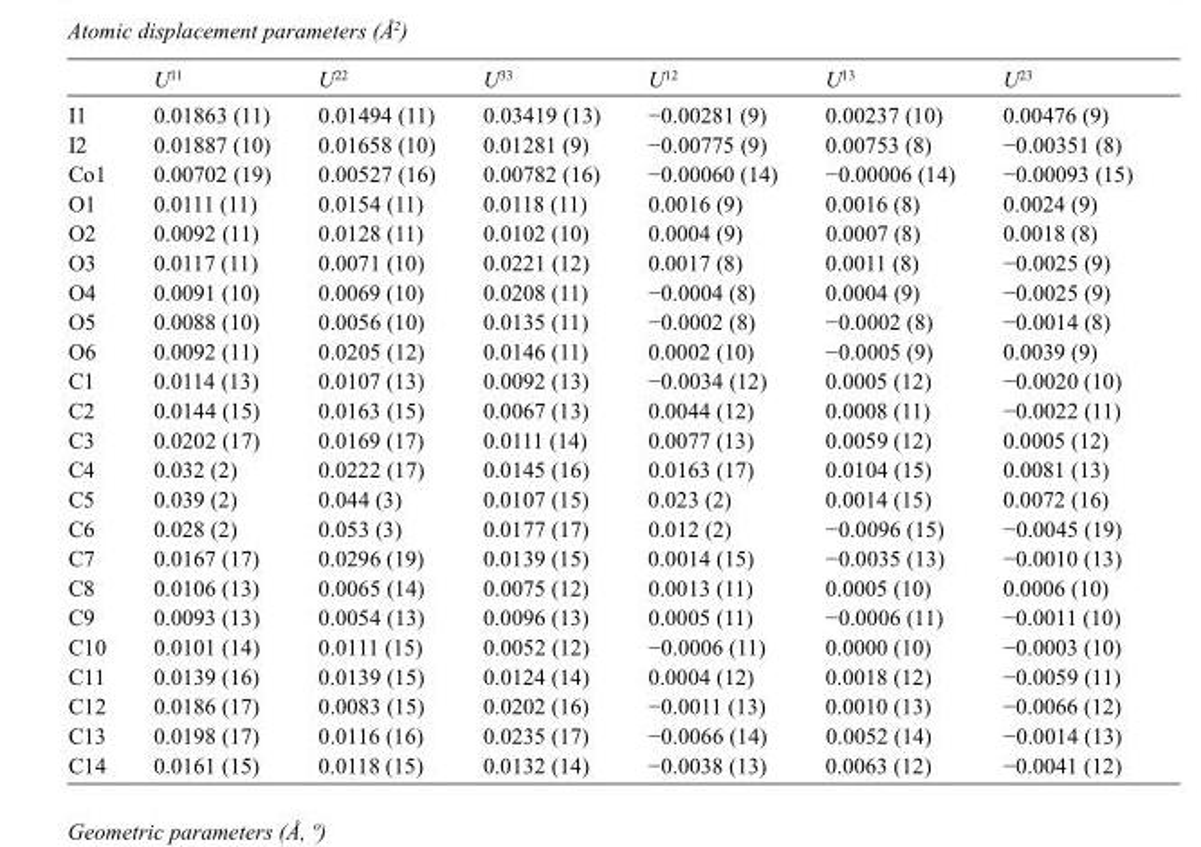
<table><thead><tr><td></td><td>U<sup>11</sup></td><td>U<sup>22</sup></td><td>U<sup>33</sup></td><td>U<sup>12</sup></td><td>U<sup>13</sup></td><td>U<sup>23</sup></td></tr></thead><tbody><tr><td>I1</td><td>0.01863 (11)</td><td>0.01494 (11)</td><td>0.03419 (13)</td><td>−0.00281 (9)</td><td>0.00237 (10)</td><td>0.00476 (9)</td></tr><tr><td>I2</td><td>0.01887 (10)</td><td>0.01658 (10)</td><td>0.01281 (9)</td><td>−0.00775 (9)</td><td>0.00753 (8)</td><td>−0.00351 (8)</td></tr><tr><td>Co1</td><td>0.00702 (19)</td><td>0.00527 (16)</td><td>0.00782 (16)</td><td>−0.00060 (14)</td><td>−0.00006 (14)</td><td>−0.00093 (15)</td></tr><tr><td>O1</td><td>0.0111 (11)</td><td>0.0154 (11)</td><td>0.0118 (11)</td><td>0.0016 (9)</td><td>0.0016 (8)</td><td>0.0024 (9)</td></tr><tr><td>O2</td><td>0.0092 (11)</td><td>0.0128 (11)</td><td>0.0102 (10)</td><td>0.0004 (9)</td><td>0.0007 (8)</td><td>0.0018 (8)</td></tr><tr><td>O3</td><td>0.0117 (11)</td><td>0.0071 (10)</td><td>0.0221 (12)</td><td>0.0017 (8)</td><td>0.0011 (8)</td><td>−0.0025 (9)</td></tr><tr><td>O4</td><td>0.0091 (10)</td><td>0.0069 (10)</td><td>0.0208 (11)</td><td>−0.0004 (8)</td><td>0.0004 (9)</td><td>−0.0025 (9)</td></tr><tr><td>O5</td><td>0.0088 (10)</td><td>0.0056 (10)</td><td>0.0135 (11)</td><td>−0.0002 (8)</td><td>−0.0002 (8)</td><td>−0.0014 (8)</td></tr><tr><td>O6</td><td>0.0092 (11)</td><td>0.0205 (12)</td><td>0.0146 (11)</td><td>0.0002 (10)</td><td>−0.0005 (9)</td><td>0.0039 (9)</td></tr><tr><td>C1</td><td>0.0114 (13)</td><td>0.0107 (13)</td><td>0.0092 (13)</td><td>−0.0034 (12)</td><td>0.0005 (12)</td><td>−0.0020 (10)</td></tr><tr><td>C2</td><td>0.0144 (15)</td><td>0.0163 (15)</td><td>0.0067 (13)</td><td>0.0044 (12)</td><td>0.0008 (11)</td><td>−0.0022 (11)</td></tr><tr><td>C3</td><td>0.0202 (17)</td><td>0.0169 (17)</td><td>0.0111 (14)</td><td>0.0077 (13)</td><td>0.0059 (12)</td><td>0.0005 (12)</td></tr><tr><td>C4</td><td>0.032 (2)</td><td>0.0222 (17)</td><td>0.0145 (16)</td><td>0.0163 (17)</td><td>0.0104 (15)</td><td>0.0081 (13)</td></tr><tr><td>C5</td><td>0.039 (2)</td><td>0.044 (3)</td><td>0.0107 (15)</td><td>0.023 (2)</td><td>0.0014 (15)</td><td>0.0072 (16)</td></tr><tr><td>C6</td><td>0.028 (2)</td><td>0.053 (3)</td><td>0.0177 (17)</td><td>0.012 (2)</td><td>−0.0096 (15)</td><td>−0.0045 (19)</td></tr><tr><td>C7</td><td>0.0167 (17)</td><td>0.0296 (19)</td><td>0.0139 (15)</td><td>0.0014 (15)</td><td>−0.0035 (13)</td><td>−0.0010 (13)</td></tr><tr><td>C8</td><td>0.0106 (13)</td><td>0.0065 (14)</td><td>0.0075 (12)</td><td>0.0013 (11)</td><td>0.0005 (10)</td><td>0.0006 (10)</td></tr><tr><td>C9</td><td>0.0093 (13)</td><td>0.0054 (13)</td><td>0.0096 (13)</td><td>0.0005 (11)</td><td>−0.0006 (11)</td><td>−0.0011 (10)</td></tr><tr><td>C10</td><td>0.0101 (14)</td><td>0.0111 (15)</td><td>0.0052 (12)</td><td>−0.0006 (11)</td><td>0.0000 (10)</td><td>−0.0003 (10)</td></tr><tr><td>C11</td><td>0.0139 (16)</td><td>0.0139 (15)</td><td>0.0124 (14)</td><td>0.0004 (12)</td><td>0.0018 (12)</td><td>−0.0059 (11)</td></tr><tr><td>C12</td><td>0.0186 (17)</td><td>0.0083 (15)</td><td>0.0202 (16)</td><td>−0.0011 (13)</td><td>0.0010 (13)</td><td>−0.0066 (12)</td></tr><tr><td>C13</td><td>0.0198 (17)</td><td>0.0116 (16)</td><td>0.0235 (17)</td><td>−0.0066 (14)</td><td>0.0052 (14)</td><td>−0.0014 (13)</td></tr><tr><td>C14</td><td>0.0161 (15)</td><td>0.0118 (15)</td><td>0.0132 (14)</td><td>−0.0038 (13)</td><td>0.0063 (12)</td><td>−0.0041 (12)</td></tr></tbody></table>